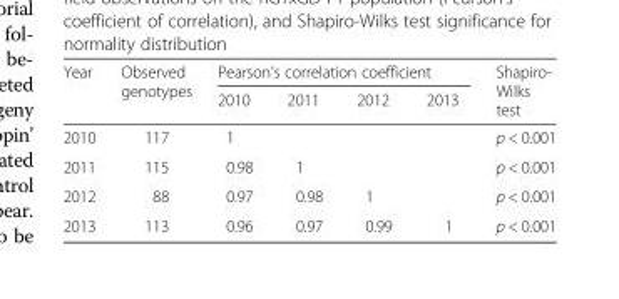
<table><thead><tr><td rowspan="2">Year</td><td rowspan="2">Observed genotypes</td><td colspan="4">Pearson&#x27;s correlation coefficient</td><td rowspan="2">Shapiro- Wilks test</td></tr><tr><td>2010</td><td>2011</td><td>2012</td><td>2013</td></tr></thead><tbody><tr><td>2010</td><td>117</td><td>1</td><td></td><td></td><td></td><td>p &lt; 0.001</td></tr><tr><td>2011</td><td>115</td><td>0.98</td><td>1</td><td></td><td></td><td>p &lt; 0.001</td></tr><tr><td>2012</td><td>88</td><td>0.97</td><td>0.98</td><td>1</td><td></td><td>p &lt; 0.001</td></tr><tr><td>2013</td><td>113</td><td>0.96</td><td>0.97</td><td>0.99</td><td>1</td><td>p &lt; 0.001</td></tr></tbody></table>